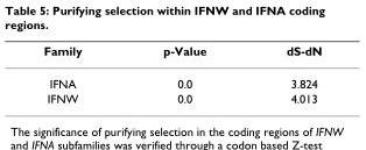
<table><thead><tr><td>Family</td><td>p-Value</td><td>dS-dN</td></tr></thead><tbody><tr><td>IFNA</td><td>0.0</td><td>3.824</td></tr><tr><td>IFNW</td><td>0.0</td><td>4.013</td></tr></tbody></table>